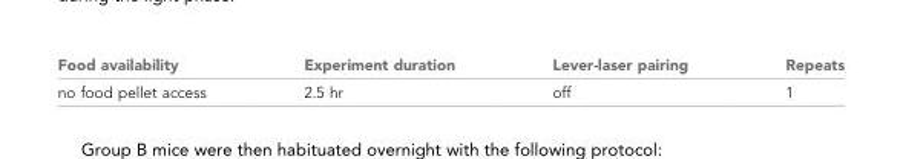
<table><thead><tr><td>Food availability</td><td>Experiment duration</td><td>Lever-laser pairing</td><td>Repeats</td></tr></thead><tbody><tr><td>no food pellet access</td><td>2.5 hr</td><td>off</td><td>1</td></tr></tbody></table>